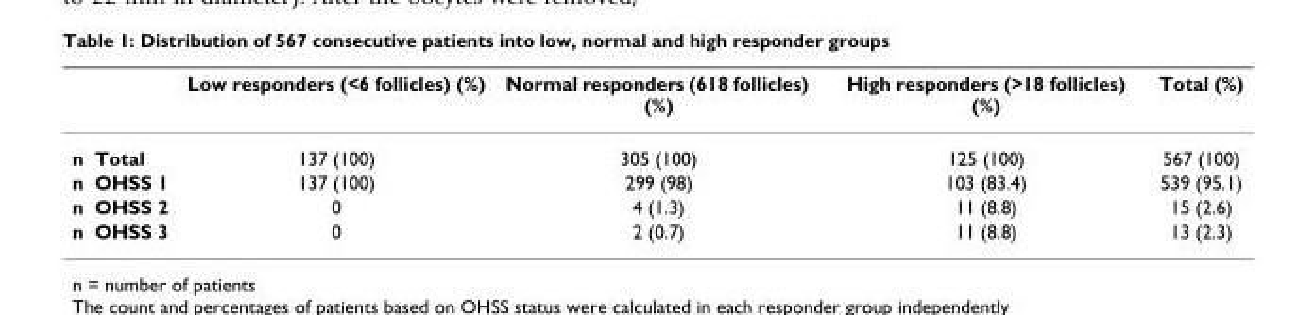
<table><thead><tr><td></td><td>Low responders (&lt;6 follicles) (%)</td><td>Normal responders (618 follicles) (%)</td><td>High responders (&gt;18 follicles) (%)</td><td>Total (%)</td></tr></thead><tbody><tr><td>n Total</td><td>137 (100)</td><td>305 (100)</td><td>125 (100)</td><td>567 (100)</td></tr><tr><td>n OHSS 1</td><td>137 (100)</td><td>299 (98)</td><td>103 (83.4)</td><td>539 (95.1)</td></tr><tr><td>n OHSS 2</td><td>0</td><td>4 (1.3)</td><td>11 (8.8)</td><td>15 (2.6)</td></tr><tr><td>n OHSS 3</td><td>0</td><td>2 (0.7)</td><td>11 (8.8)</td><td>13 (2.3)</td></tr></tbody></table>